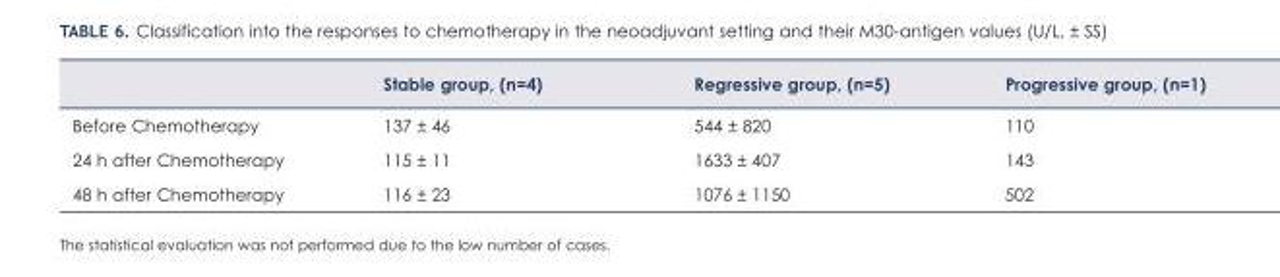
<table><thead><tr><td></td><td>Stable group, (n=4)</td><td>Regressive group, (n=5)</td><td>Progressive group, (n=1)</td></tr></thead><tbody><tr><td>Before Chemotherapy</td><td>137 ± 46</td><td>544 ± 820</td><td>110</td></tr><tr><td>24 h after Chemotherapy</td><td>115 ± 11</td><td>1633 ± 407</td><td>143</td></tr><tr><td>48 h after Chemotherapy</td><td>116 ± 23</td><td>1076 ± 1150</td><td>502</td></tr></tbody></table>